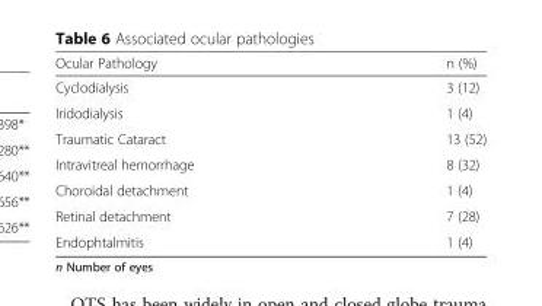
<table><thead><tr><td>Ocular Pathology</td><td>n (%)</td></tr></thead><tbody><tr><td>Cyclodialysis</td><td>3 (12)</td></tr><tr><td>Iridodialysis</td><td>1 (4)</td></tr><tr><td>Traumatic Cataract</td><td>13 (52)</td></tr><tr><td>Intravitreal hemorrhage</td><td>8 (32)</td></tr><tr><td>Choroidal detachment</td><td>1 (4)</td></tr><tr><td>Retinal detachment</td><td>7 (28)</td></tr><tr><td>Endophtalmitis</td><td>1 (4)</td></tr></tbody></table>